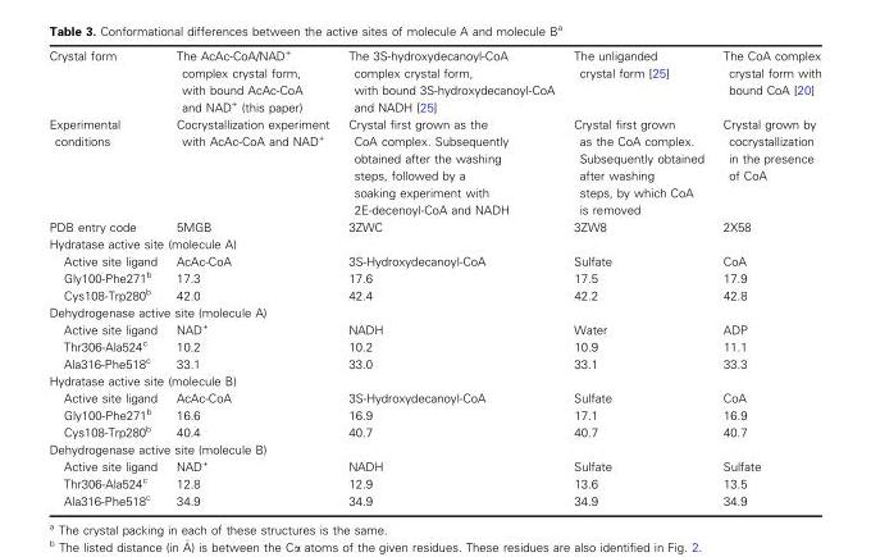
<table><tbody><tr><td>Crystal form</td><td>The AcAc-CoA/NAD<sup>+</sup> complex crystal form, with bound AcAc-CoA and NAD<sup>+</sup> (this paper)</td><td>The 3S-hydroxydecanoyl-CoA complex crystal form, with bound 3S-hydroxydecanoyl-CoA and NADH [25]</td><td>The unliganded crystal form [25]</td><td>The CoA complex crystal form with bound CoA [20]</td></tr><tr><td>Experimental conditions</td><td>Cocrystallization experiment with AcAc-CoA and NAD<sup>+</sup></td><td>Crystal first grown as the CoA complex. Subsequently obtained after the washing steps, followed by a soaking experiment with 2E-decenoyl-CoA and NADH</td><td>Crystal first grown as the CoA complex. Subsequently obtained after washing steps, by which CoA is removed</td><td>Crystal grown by cocrystallization in the presence of CoA</td></tr><tr><td>PDB entry code</td><td>5MGB</td><td>3ZWC</td><td>3ZW8</td><td>2X58</td></tr><tr><td colspan="5">Hydratase active site (molecule A)</td></tr><tr><td>Active site ligand</td><td>AcAc-CoA</td><td>3S-Hydroxydecanoyl-CoA</td><td>Sulfate</td><td>CoA</td></tr><tr><td>Gly100-Phe271<sup>b</sup></td><td>17.3</td><td>17.6</td><td>17.5</td><td>17.9</td></tr><tr><td>Cys108-Trp280<sup>b</sup></td><td>42.0</td><td>42.4</td><td>42.2</td><td>42.8</td></tr><tr><td colspan="5">Dehydrogenase active site (molecule A)</td></tr><tr><td>Active site ligand</td><td>NAD<sup>+</sup></td><td>NADH</td><td>Water</td><td>ADP</td></tr><tr><td>Thr306-Ala524<sup>c</sup></td><td>10.2</td><td>10.2</td><td>10.9</td><td>11.1</td></tr><tr><td>Ala316-Phe518<sup>c</sup></td><td>33.1</td><td>33.0</td><td>33.1</td><td>33.3</td></tr><tr><td colspan="5">Hydratase active site (molecule B)</td></tr><tr><td>Active site ligand</td><td>AcAc-CoA</td><td>3S-Hydroxydecanoyl-CoA</td><td>Sulfate</td><td>CoA</td></tr><tr><td>Gly100-Phe271<sup>b</sup></td><td>16.6</td><td>16.9</td><td>17.1</td><td>16.9</td></tr><tr><td>Cys108-Trp280<sup>b</sup></td><td>40.4</td><td>40.7</td><td>40.7</td><td>40.7</td></tr><tr><td colspan="5">Dehydrogenase active site (molecule B)</td></tr><tr><td>Active site ligand</td><td>NAD<sup>+</sup></td><td>NADH</td><td>Sulfate</td><td>Sulfate</td></tr><tr><td>Thr306-Ala524<sup>c</sup></td><td>12.8</td><td>12.9</td><td>13.6</td><td>13.5</td></tr><tr><td>Ala316-Phe518<sup>c</sup></td><td>34.9</td><td>34.9</td><td>34.9</td><td>34.9</td></tr></tbody></table>